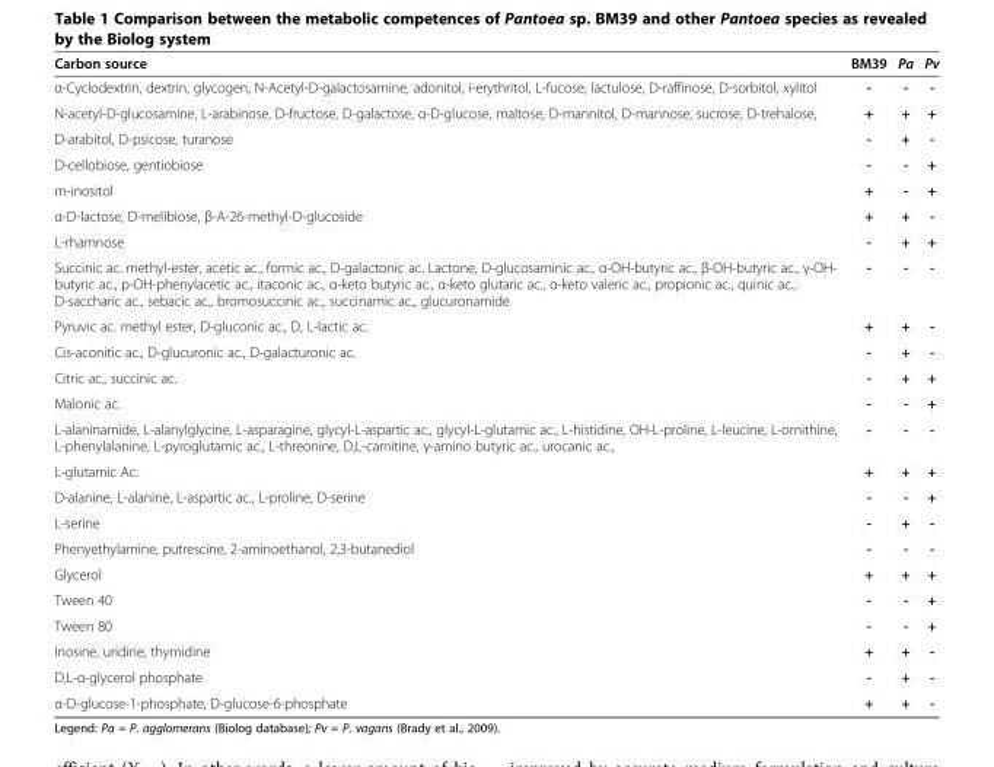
<table><thead><tr><td>Carbon source</td><td>BM39</td><td>Pa</td><td>Pv</td></tr></thead><tbody><tr><td>α-Cyclodextrin, dextrin, glycogen, N-Acetyl-D-galactosamine, adonitol, i-erythritol, L-fucose, lactulose, D-raffinose, D-sorbitol, xylitol</td><td>-</td><td>-</td><td>-</td></tr><tr><td>N-acetyl-D-glucosamine, L-arabinose, D-fructose, D-galactose, α-D-glucose, maltose, D-mannitol, D-mannose, sucrose, D-trehalose,</td><td>+</td><td>+</td><td>+</td></tr><tr><td>D-arabitol, D-psicose, turanose</td><td>-</td><td>+</td><td>-</td></tr><tr><td>D-cellobiose, gentiobiose</td><td>-</td><td>-</td><td>+</td></tr><tr><td>m-inositol</td><td>+</td><td>-</td><td>+</td></tr><tr><td>α-D-lactose, D-melibiose, β-A-26-methyl-D-glucoside</td><td>+</td><td>+</td><td>-</td></tr><tr><td>L-rhamnose</td><td>-</td><td>+</td><td>+</td></tr><tr><td>Succinic ac. methyl-ester, acetic ac., formic ac., D-galactonic ac. Lactone, D-glucosaminic ac., α-OH-butyric ac., β-OH-butyric ac., γ-OH- butyric ac., p-OH-phenylacetic ac., itaconic ac., α-keto butyric ac., α-keto glutaric ac., α-keto valeric ac., propionic ac., quinic ac., D-saccharic ac., sebacic ac., bromosuccinic ac., succinamic ac., glucuronamide</td><td>-</td><td>-</td><td>-</td></tr><tr><td>Pyruvic ac. methyl ester, D-gluconic ac., D, L-lactic ac.</td><td>+</td><td>+</td><td>-</td></tr><tr><td>Cis-aconitic ac., D-glucuronic ac., D-galacturonic ac.</td><td>-</td><td>+</td><td>-</td></tr><tr><td>Citric ac., succinic ac.</td><td>-</td><td>+</td><td>+</td></tr><tr><td>Malonic ac.</td><td>-</td><td>-</td><td>+</td></tr><tr><td>L-alaninamide, L-alanylglycine, L-asparagine, glycyl-L-aspartic ac., glycyl-L-glutamic ac., L-histidine, OH-L-proline, L-leucine, L-ornithine, L-phenylalanine, L-pyroglutamic ac., L-threonine, D,L-carnitine, γ-amino butyric ac., urocanic ac.,</td><td>-</td><td>-</td><td>-</td></tr><tr><td>L-glutamic Ac.</td><td>+</td><td>+</td><td>+</td></tr><tr><td>D-alanine, L-alanine, L-aspartic ac., L-proline, D-serine</td><td>-</td><td>-</td><td>+</td></tr><tr><td>L-serine</td><td>-</td><td>+</td><td>-</td></tr><tr><td>Phenyethylamine, putrescine, 2-aminoethanol, 2,3-butanediol</td><td>-</td><td>-</td><td>-</td></tr><tr><td>Glycerol</td><td>+</td><td>+</td><td>+</td></tr><tr><td>Tween 40</td><td>-</td><td>-</td><td>+</td></tr><tr><td>Tween 80</td><td>-</td><td>-</td><td>+</td></tr><tr><td>Inosine, uridine, thymidine</td><td>+</td><td>+</td><td>-</td></tr><tr><td>D,L-α-glycerol phosphate</td><td>-</td><td>+</td><td>-</td></tr><tr><td>α-D-glucose-1-phosphate, D-glucose-6-phosphate</td><td>+</td><td>+</td><td>-</td></tr></tbody></table>